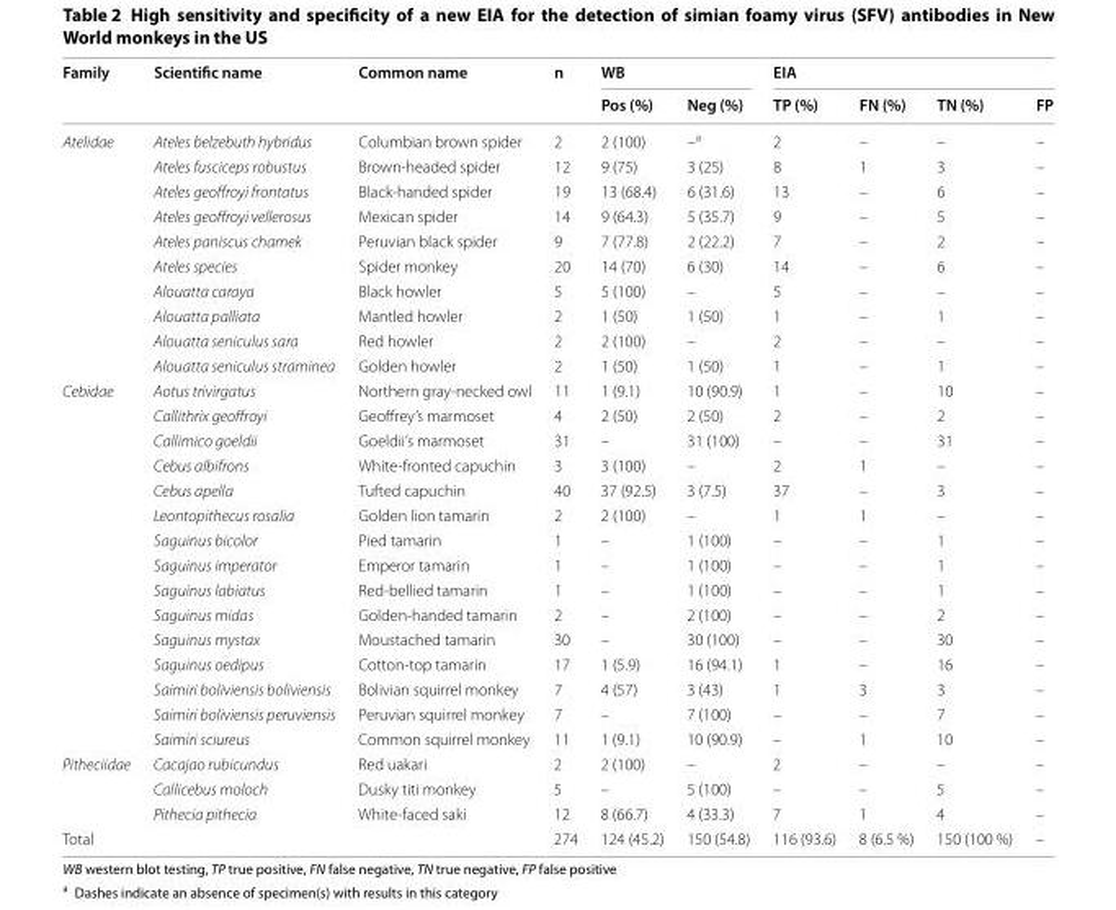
<table><thead><tr><td rowspan="2">Family</td><td rowspan="2">Scientific name</td><td rowspan="2">Common name</td><td rowspan="2">n</td><td colspan="2">WB</td><td colspan="4">EIA</td></tr><tr><td>Pos (%)</td><td>Neg (%)</td><td>TP (%)</td><td>FN (%)</td><td>TN (%)</td><td>FP</td></tr></thead><tbody><tr><td rowspan="10">Atelidae</td><td>Ateles belzebuth hybridus</td><td>Columbian brown spider</td><td>2</td><td>2 (100)</td><td>–<sup>a</sup></td><td>2</td><td>–</td><td>–</td><td>–</td></tr><tr><td>Ateles fusciceps robustus</td><td>Brown-headed spider</td><td>12</td><td>9 (75)</td><td>3 (25)</td><td>8</td><td>1</td><td>3</td><td>–</td></tr><tr><td>Ateles geoffroyi frontatus</td><td>Black-handed spider</td><td>19</td><td>13 (68.4)</td><td>6 (31.6)</td><td>13</td><td>–</td><td>6</td><td>–</td></tr><tr><td>Ateles geoffroyi vellerosus</td><td>Mexican spider</td><td>14</td><td>9 (64.3)</td><td>5 (35.7)</td><td>9</td><td>–</td><td>5</td><td>–</td></tr><tr><td>Ateles paniscus chamek</td><td>Peruvian black spider</td><td>9</td><td>7 (77.8)</td><td>2 (22.2)</td><td>7</td><td>–</td><td>2</td><td>–</td></tr><tr><td>Ateles species</td><td>Spider monkey</td><td>20</td><td>14 (70)</td><td>6 (30)</td><td>14</td><td>–</td><td>6</td><td>–</td></tr><tr><td>Alouatta caraya</td><td>Black howler</td><td>5</td><td>5 (100)</td><td>–</td><td>5</td><td>–</td><td>–</td><td>–</td></tr><tr><td>Alouatta palliata</td><td>Mantled howler</td><td>2</td><td>1 (50)</td><td>1 (50)</td><td>1</td><td>–</td><td>1</td><td>–</td></tr><tr><td>Alouatta seniculus sara</td><td>Red howler</td><td>2</td><td>2 (100)</td><td>–</td><td>2</td><td>–</td><td>–</td><td>–</td></tr><tr><td>Alouatta seniculus straminea</td><td>Golden howler</td><td>2</td><td>1 (50)</td><td>1 (50)</td><td>1</td><td>–</td><td>1</td><td>–</td></tr><tr><td rowspan="15">Cebidae</td><td>Aotus trivirgatus</td><td>Northern gray-necked owl</td><td>11</td><td>1 (9.1)</td><td>10 (90.9)</td><td>1</td><td>–</td><td>10</td><td>–</td></tr><tr><td>Callithrix geoffroyi</td><td>Geoffrey’s marmoset</td><td>4</td><td>2 (50)</td><td>2 (50)</td><td>2</td><td>–</td><td>2</td><td>–</td></tr><tr><td>Callimico goeldii</td><td>Goeldii’s marmoset</td><td>31</td><td>–</td><td>31 (100)</td><td>–</td><td>–</td><td>31</td><td>–</td></tr><tr><td>Cebus albifrons</td><td>White-fronted capuchin</td><td>3</td><td>3 (100)</td><td>–</td><td>2</td><td>1</td><td>–</td><td>–</td></tr><tr><td>Cebus apella</td><td>Tufted capuchin</td><td>40</td><td>37 (92.5)</td><td>3 (7.5)</td><td>37</td><td>–</td><td>3</td><td>–</td></tr><tr><td>Leontopithecus rosalia</td><td>Golden lion tamarin</td><td>2</td><td>2 (100)</td><td>–</td><td>1</td><td>1</td><td>–</td><td>–</td></tr><tr><td>Saguinus bicolor</td><td>Pied tamarin</td><td>1</td><td>–</td><td>1 (100)</td><td>–</td><td>–</td><td>1</td><td>–</td></tr><tr><td>Saguinus imperator</td><td>Emperor tamarin</td><td>1</td><td>–</td><td>1 (100)</td><td>–</td><td>–</td><td>1</td><td>–</td></tr><tr><td>Saguinus labiatus</td><td>Red-bellied tamarin</td><td>1</td><td>–</td><td>1 (100)</td><td>–</td><td>–</td><td>1</td><td>–</td></tr><tr><td>Saguinus midas</td><td>Golden-handed tamarin</td><td>2</td><td>–</td><td>2 (100)</td><td>–</td><td>–</td><td>2</td><td>–</td></tr><tr><td>Saguinus mystax</td><td>Moustached tamarin</td><td>30</td><td>–</td><td>30 (100)</td><td>–</td><td>–</td><td>30</td><td>–</td></tr><tr><td>Saguinus oedipus</td><td>Cotton-top tamarin</td><td>17</td><td>1 (5.9)</td><td>16 (94.1)</td><td>1</td><td>–</td><td>16</td><td>–</td></tr><tr><td>Saimiri boliviensis boliviensis</td><td>Bolivian squirrel monkey</td><td>7</td><td>4 (57)</td><td>3 (43)</td><td>1</td><td>3</td><td>3</td><td>–</td></tr><tr><td>Saimiri boliviensis peruviensis</td><td>Peruvian squirrel monkey</td><td>7</td><td>–</td><td>7 (100)</td><td>–</td><td>–</td><td>7</td><td>–</td></tr><tr><td>Saimiri sciureus</td><td>Common squirrel monkey</td><td>11</td><td>1 (9.1)</td><td>10 (90.9)</td><td>–</td><td>1</td><td>10</td><td>–</td></tr><tr><td rowspan="3">Pitheciidae</td><td>Cacajao rubicundus</td><td>Red uakari</td><td>2</td><td>2 (100)</td><td>–</td><td>2</td><td>–</td><td>–</td><td>–</td></tr><tr><td>Callicebus moloch</td><td>Dusky titi monkey</td><td>5</td><td>–</td><td>5 (100)</td><td>–</td><td>–</td><td>5</td><td>–</td></tr><tr><td>Pithecia pithecia</td><td>White-faced saki</td><td>12</td><td>8 (66.7)</td><td>4 (33.3)</td><td>7</td><td>1</td><td>4</td><td>–</td></tr><tr><td>Total</td><td></td><td></td><td>274</td><td>124 (45.2)</td><td>150 (54.8)</td><td>116 (93.6)</td><td>8 (6.5 %)</td><td>150 (100 %)</td><td>–</td></tr></tbody></table>